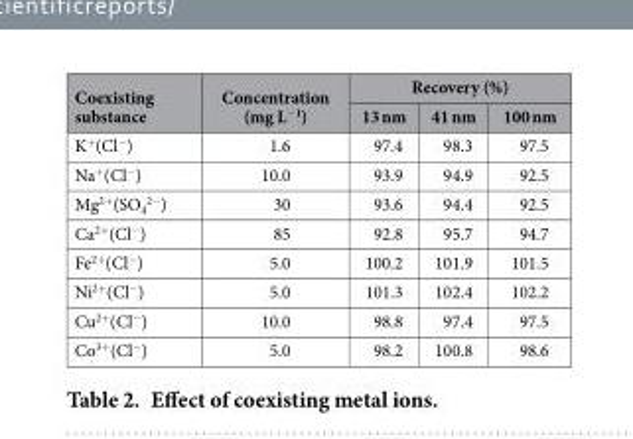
<table><thead><tr><td rowspan="2">Coexisting substance</td><td rowspan="2">Concentration (mg L<sup>−1</sup>)</td><td colspan="3">Recovery (%)</td></tr><tr><td>13 nm</td><td>41 nm</td><td>100 nm</td></tr></thead><tbody><tr><td>K<sup>+</sup>(Cl<sup>−</sup>)</td><td>1.6</td><td>97.4</td><td>98.3</td><td>97.5</td></tr><tr><td>Na<sup>+</sup>(Cl<sup>−</sup>)</td><td>10.0</td><td>93.9</td><td>94.9</td><td>92.5</td></tr><tr><td>Mg<sup>2+</sup>(SO<sub>4</sub> <sup>2−</sup>)</td><td>30</td><td>93.6</td><td>94.4</td><td>92.5</td></tr><tr><td>Ca<sup>2+</sup>(Cl<sup>−</sup>)</td><td>85</td><td>92.8</td><td>95.7</td><td>94.7</td></tr><tr><td>Fe<sup>2+</sup>(Cl<sup>−</sup>)</td><td>5.0</td><td>100.2</td><td>101.9</td><td>101.5</td></tr><tr><td>Ni<sup>2+</sup>(Cl<sup>−</sup>)</td><td>5.0</td><td>101.3</td><td>102.4</td><td>102.2</td></tr><tr><td>Cu<sup>2+</sup>(Cl<sup>−</sup>)</td><td>10.0</td><td>98.8</td><td>97.4</td><td>97.5</td></tr><tr><td>Co<sup>3+</sup>(Cl<sup>−</sup>)</td><td>5.0</td><td>98.2</td><td>100.8</td><td>98.6</td></tr></tbody></table>